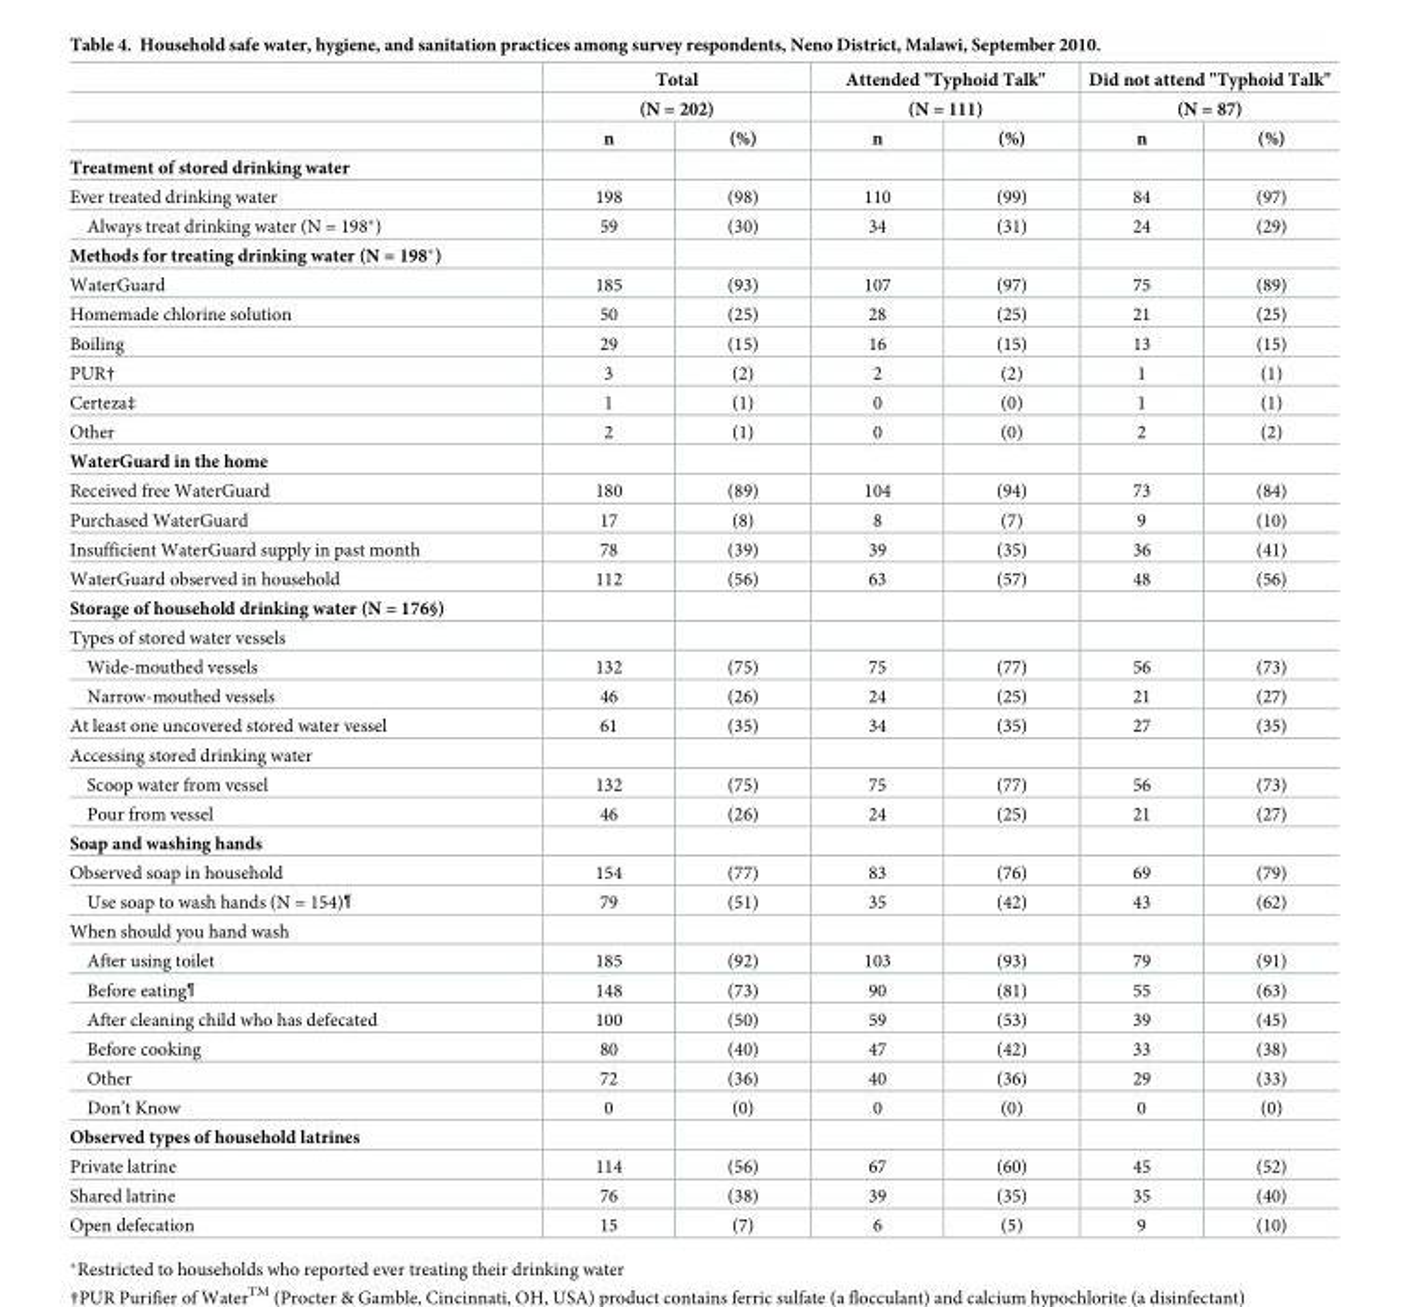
<table><thead><tr><td rowspan="3"></td><td rowspan="2" colspan="2">Total (N = 202)</td><td rowspan="2" colspan="2">Attended &quot;Typhoid Talk&quot; (N = 111)</td><td rowspan="2" colspan="2">Did not attend &quot;Typhoid Talk&quot; (N = 87)</td></tr><tr></tr><tr><td>n</td><td>(%)</td><td>n</td><td>(%)</td><td>n</td><td>(%)</td></tr></thead><tbody><tr><td colspan="7">Treatment of stored drinking water</td></tr><tr><td>Ever treated drinking water</td><td>198</td><td>(98)</td><td>110</td><td>(99)</td><td>84</td><td>(97)</td></tr><tr><td>Always treat drinking water (N = 198*)</td><td>59</td><td>(30)</td><td>34</td><td>(31)</td><td>24</td><td>(29)</td></tr><tr><td colspan="7">Methods for treating drinking water (N = 198*)</td></tr><tr><td>WaterGuard</td><td>185</td><td>(93)</td><td>107</td><td>(97)</td><td>75</td><td>(89)</td></tr><tr><td>Homemade chlorine solution</td><td>50</td><td>(25)</td><td>28</td><td>(25)</td><td>21</td><td>(25)</td></tr><tr><td>Boiling</td><td>29</td><td>(15)</td><td>16</td><td>(15)</td><td>13</td><td>(15)</td></tr><tr><td>PUR†</td><td>3</td><td>(2)</td><td>2</td><td>(2)</td><td>1</td><td>(1)</td></tr><tr><td>Certeza‡</td><td>1</td><td>(1)</td><td>0</td><td>(0)</td><td>1</td><td>(1)</td></tr><tr><td>Other</td><td>2</td><td>(1)</td><td>0</td><td>(0)</td><td>2</td><td>(2)</td></tr><tr><td colspan="7">WaterGuard in the home</td></tr><tr><td>Received free WaterGuard</td><td>180</td><td>(89)</td><td>104</td><td>(94)</td><td>73</td><td>(84)</td></tr><tr><td>Purchased WaterGuard</td><td>17</td><td>(8)</td><td>8</td><td>(7)</td><td>9</td><td>(10)</td></tr><tr><td>Insufficient WaterGuard supply in past month</td><td>78</td><td>(39)</td><td>39</td><td>(35)</td><td>36</td><td>(41)</td></tr><tr><td>WaterGuard observed in household</td><td>112</td><td>(56)</td><td>63</td><td>(57)</td><td>48</td><td>(56)</td></tr><tr><td colspan="7">Storage of household drinking water (N = 176§)</td></tr><tr><td colspan="7">Types of stored water vessels</td></tr><tr><td>Wide-mouthed vessels</td><td>132</td><td>(75)</td><td>75</td><td>(77)</td><td>56</td><td>(73)</td></tr><tr><td>Narrow-mouthed vessels</td><td>46</td><td>(26)</td><td>24</td><td>(25)</td><td>21</td><td>(27)</td></tr><tr><td>At least one uncovered stored water vessel</td><td>61</td><td>(35)</td><td>34</td><td>(35)</td><td>27</td><td>(35)</td></tr><tr><td colspan="7">Accessing stored drinking water</td></tr><tr><td>Scoop water from vessel</td><td>132</td><td>(75)</td><td>75</td><td>(77)</td><td>56</td><td>(73)</td></tr><tr><td>Pour from vessel</td><td>46</td><td>(26)</td><td>24</td><td>(25)</td><td>21</td><td>(27)</td></tr><tr><td colspan="7">Soap and washing hands</td></tr><tr><td>Observed soap in household</td><td>154</td><td>(77)</td><td>83</td><td>(76)</td><td>69</td><td>(79)</td></tr><tr><td>Use soap to wash hands (N = 154)¶</td><td>79</td><td>(51)</td><td>35</td><td>(42)</td><td>43</td><td>(62)</td></tr><tr><td colspan="7">When should you hand wash</td></tr><tr><td>After using toilet</td><td>185</td><td>(92)</td><td>103</td><td>(93)</td><td>79</td><td>(91)</td></tr><tr><td>Before eating¶</td><td>148</td><td>(73)</td><td>90</td><td>(81)</td><td>55</td><td>(63)</td></tr><tr><td>After cleaning child who has defecated</td><td>100</td><td>(50)</td><td>59</td><td>(53)</td><td>39</td><td>(45)</td></tr><tr><td>Before cooking</td><td>80</td><td>(40)</td><td>47</td><td>(42)</td><td>33</td><td>(38)</td></tr><tr><td>Other</td><td>72</td><td>(36)</td><td>40</td><td>(36)</td><td>29</td><td>(33)</td></tr><tr><td>Don’t Know</td><td>0</td><td>(0)</td><td>0</td><td>(0)</td><td>0</td><td>(0)</td></tr><tr><td colspan="7">Observed types of household latrines</td></tr><tr><td>Private latrine</td><td>114</td><td>(56)</td><td>67</td><td>(60)</td><td>45</td><td>(52)</td></tr><tr><td>Shared latrine</td><td>76</td><td>(38)</td><td>39</td><td>(35)</td><td>35</td><td>(40)</td></tr><tr><td>Open defecation</td><td>15</td><td>(7)</td><td>6</td><td>(5)</td><td>9</td><td>(10)</td></tr></tbody></table>